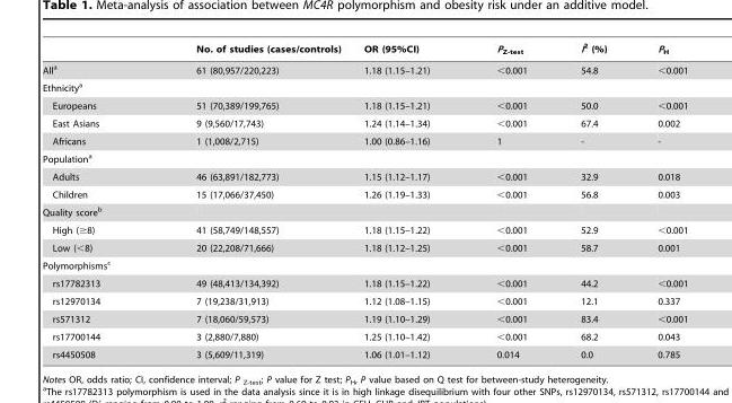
<table><thead><tr><td></td><td>No. of studies (cases/controls)</td><td>OR (95%CI)</td><td>P<sub>Z-test</sub></td><td>I<sup>2</sup> (%)</td><td>P<sub>H</sub></td></tr></thead><tbody><tr><td>All<sup>a</sup></td><td>61 (80,957/220,223)</td><td>1.18 (1.15–1.21)</td><td>&lt;0.001</td><td>54.8</td><td>&lt;0.001</td></tr><tr><td colspan="6">Ethnicity<sup>a</sup></td></tr><tr><td>Europeans</td><td>51 (70,389/199,765)</td><td>1.18 (1.15–1.21)</td><td>&lt;0.001</td><td>50.0</td><td>&lt;0.001</td></tr><tr><td>East Asians</td><td>9 (9,560/17,743)</td><td>1.24 (1.14–1.34)</td><td>&lt;0.001</td><td>67.4</td><td>0.002</td></tr><tr><td>Africans</td><td>1 (1,008/2,715)</td><td>1.00 (0.86–1.16)</td><td>1</td><td>-</td><td>-</td></tr><tr><td colspan="6">Population<sup>a</sup></td></tr><tr><td>Adults</td><td>46 (63,891/182,773)</td><td>1.15 (1.12–1.17)</td><td>&lt;0.001</td><td>32.9</td><td>0.018</td></tr><tr><td>Children</td><td>15 (17,066/37,450)</td><td>1.26 (1.19–1.33)</td><td>&lt;0.001</td><td>56.8</td><td>0.003</td></tr><tr><td colspan="6">Quality score<sup>b</sup></td></tr><tr><td>High (≥8)</td><td>41 (58,749/148,557)</td><td>1.18 (1.15–1.22)</td><td>&lt;0.001</td><td>52.9</td><td>&lt;0.001</td></tr><tr><td>Low (&lt;8)</td><td>20 (22,208/71,666)</td><td>1.18 (1.12–1.25)</td><td>&lt;0.001</td><td>58.7</td><td>0.001</td></tr><tr><td colspan="6">Polymorphisms<sup>c</sup></td></tr><tr><td>rs17782313</td><td>49 (48,413/134,392)</td><td>1.18 (1.15–1.22)</td><td>&lt;0.001</td><td>44.2</td><td>&lt;0.001</td></tr><tr><td>rs12970134</td><td>7 (19,238/31,913)</td><td>1.12 (1.08–1.15)</td><td>&lt;0.001</td><td>12.1</td><td>0.337</td></tr><tr><td>rs571312</td><td>7 (18,060/59,573)</td><td>1.19 (1.10–1.29)</td><td>&lt;0.001</td><td>83.4</td><td>&lt;0.001</td></tr><tr><td>rs17700144</td><td>3 (2,880/7,880)</td><td>1.25 (1.10–1.42)</td><td>&lt;0.001</td><td>68.2</td><td>0.043</td></tr><tr><td>rs4450508</td><td>3 (5,609/11,319)</td><td>1.06 (1.01–1.12)</td><td>0.014</td><td>0.0</td><td>0.785</td></tr></tbody></table>